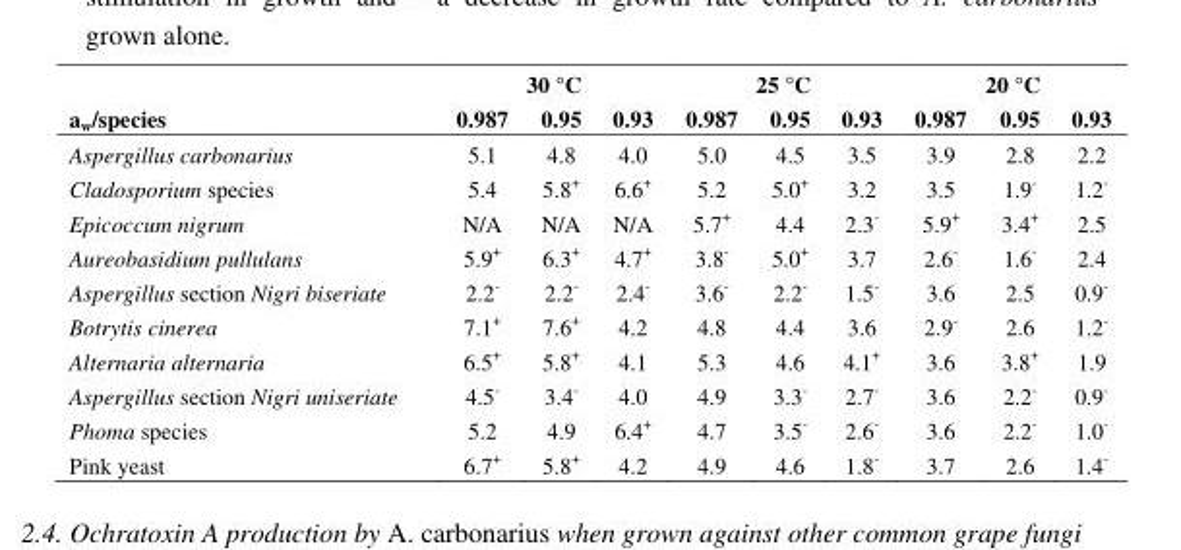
<table><thead><tr><td rowspan="2">a<sub>w</sub>/species</td><td colspan="3">30 °C</td><td colspan="3">25 °C</td><td colspan="3">20 °C</td></tr><tr><td>0.987</td><td>0.95</td><td>0.93</td><td>0.987</td><td>0.95</td><td>0.93</td><td>0.987</td><td>0.95</td><td>0.93</td></tr></thead><tbody><tr><td>Aspergillus carbonarius</td><td>5.1</td><td>4.8</td><td>4.0</td><td>5.0</td><td>4.5</td><td>3.5</td><td>3.9</td><td>2.8</td><td>2.2</td></tr><tr><td>Cladosporium species</td><td>5.4</td><td>5.8<sup>+</sup></td><td>6.6<sup>+</sup></td><td>5.2</td><td>5.0<sup>+</sup></td><td>3.2</td><td>3.5</td><td>1.9<sup>-</sup></td><td>1.2<sup>-</sup></td></tr><tr><td>Epicoccum nigrum</td><td>N/A</td><td>N/A</td><td>N/A</td><td>5.7<sup>+</sup></td><td>4.4</td><td>2.3<sup>-</sup></td><td>5.9<sup>+</sup></td><td>3.4<sup>+</sup></td><td>2.5</td></tr><tr><td>Aureobasidium pullulans</td><td>5.9<sup>+</sup></td><td>6.3<sup>+</sup></td><td>4.7<sup>+</sup></td><td>3.8<sup>-</sup></td><td>5.0<sup>+</sup></td><td>3.7</td><td>2.6<sup>-</sup></td><td>1.6<sup>-</sup></td><td>2.4</td></tr><tr><td>Aspergillus section Nigri biseriate</td><td>2.2<sup>-</sup></td><td>2.2<sup>-</sup></td><td>2.4<sup>-</sup></td><td>3.6<sup>-</sup></td><td>2.2<sup>-</sup></td><td>1.5<sup>-</sup></td><td>3.6</td><td>2.5</td><td>0.9<sup>-</sup></td></tr><tr><td>Botrytis cinerea</td><td>7.1<sup>+</sup></td><td>7.6<sup>+</sup></td><td>4.2</td><td>4.8</td><td>4.4</td><td>3.6</td><td>2.9<sup>-</sup></td><td>2.6</td><td>1.2<sup>-</sup></td></tr><tr><td>Alternaria alternaria</td><td>6.5<sup>+</sup></td><td>5.8<sup>+</sup></td><td>4.1</td><td>5.3</td><td>4.6</td><td>4.1<sup>+</sup></td><td>3.6</td><td>3.8<sup>+</sup></td><td>1.9</td></tr><tr><td>Aspergillus section Nigri uniseriate</td><td>4.5<sup>-</sup></td><td>3.4<sup>-</sup></td><td>4.0</td><td>4.9</td><td>3.3<sup>-</sup></td><td>2.7<sup>-</sup></td><td>3.6</td><td>2.2<sup>-</sup></td><td>0.9<sup>-</sup></td></tr><tr><td>Phoma species</td><td>5.2</td><td>4.9</td><td>6.4<sup>+</sup></td><td>4.7</td><td>3.5<sup>-</sup></td><td>2.6<sup>-</sup></td><td>3.6</td><td>2.2<sup>-</sup></td><td>1.0<sup>-</sup></td></tr><tr><td>Pink yeast</td><td>6.7<sup>+</sup></td><td>5.8<sup>+</sup></td><td>4.2</td><td>4.9</td><td>4.6</td><td>1.8<sup>-</sup></td><td>3.7</td><td>2.6</td><td>1.4<sup>-</sup></td></tr></tbody></table>